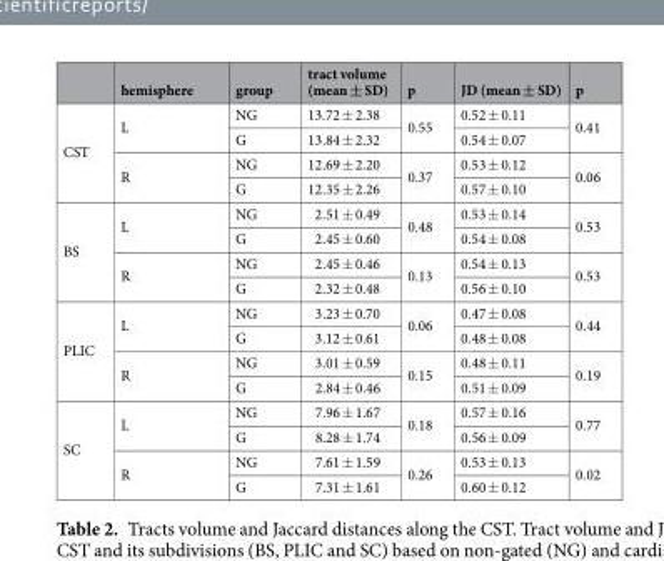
<table><thead><tr><td></td><td>hemisphere</td><td>group</td><td>tract volume (mean ± SD)</td><td>p</td><td>JD (mean ± SD)</td><td>p</td></tr></thead><tbody><tr><td rowspan="4">CST</td><td rowspan="2">L</td><td>NG</td><td>13.72 ± 2.38</td><td rowspan="2">0.55</td><td>0.52 ± 0.11</td><td rowspan="2">0.41</td></tr><tr><td>G</td><td>13.84 ± 2.32</td><td>0.54 ± 0.07</td></tr><tr><td rowspan="2">R</td><td>NG</td><td>12.69 ± 2.20</td><td rowspan="2">0.37</td><td>0.53 ± 0.12</td><td rowspan="2">0.06</td></tr><tr><td>G</td><td>12.35 ± 2.26</td><td>0.57 ± 0.10</td></tr><tr><td rowspan="4">BS</td><td rowspan="2">L</td><td>NG</td><td>2.51 ± 0.49</td><td rowspan="2">0.48</td><td>0.53 ± 0.14</td><td rowspan="2">0.53</td></tr><tr><td>G</td><td>2.45 ± 0.60</td><td>0.54 ± 0.08</td></tr><tr><td rowspan="2">R</td><td>NG</td><td>2.45 ± 0.46</td><td rowspan="2">0.13</td><td>0.54 ± 0.13</td><td rowspan="2">0.53</td></tr><tr><td>G</td><td>2.32 ± 0.48</td><td>0.56 ± 0.10</td></tr><tr><td rowspan="4">PLIC</td><td rowspan="2">L</td><td>NG</td><td>3.23 ± 0.70</td><td rowspan="2">0.06</td><td>0.47 ± 0.08</td><td rowspan="2">0.44</td></tr><tr><td>G</td><td>3.12 ± 0.61</td><td>0.48 ± 0.08</td></tr><tr><td rowspan="2">R</td><td>NG</td><td>3.01 ± 0.59</td><td rowspan="2">0.15</td><td>0.48 ± 0.11</td><td rowspan="2">0.19</td></tr><tr><td>G</td><td>2.84 ± 0.46</td><td>0.51 ± 0.09</td></tr><tr><td rowspan="4">SC</td><td rowspan="2">L</td><td>NG</td><td>7.96 ± 1.67</td><td rowspan="2">0.18</td><td>0.57 ± 0.16</td><td rowspan="2">0.77</td></tr><tr><td>G</td><td>8.28 ± 1.74</td><td>0.56 ± 0.09</td></tr><tr><td rowspan="2">R</td><td>NG</td><td>7.61 ± 1.59</td><td rowspan="2">0.26</td><td>0.53 ± 0.13</td><td rowspan="2">0.02</td></tr><tr><td>G</td><td>7.31 ± 1.61</td><td>0.60 ± 0.12</td></tr></tbody></table>